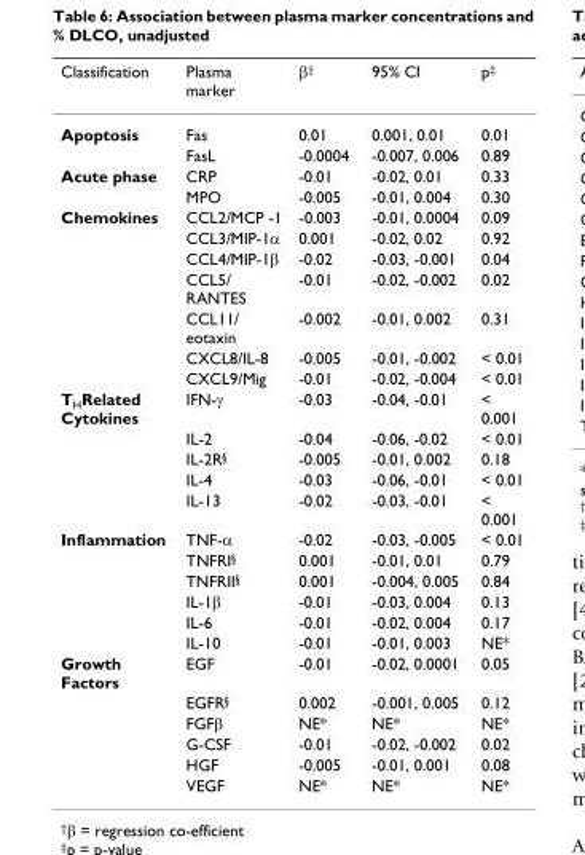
<table><thead><tr><td>Classification</td><td>Plasma marker</td><td>β<sup>†</sup></td><td>95% CI</td><td>p<sup>‡</sup></td></tr></thead><tbody><tr><td rowspan="2">Apoptosis</td><td>Fas</td><td>0.01</td><td>0.001, 0.01</td><td>0.01</td></tr><tr><td>FasL</td><td>-0.0004</td><td>-0.007, 0.006</td><td>0.89</td></tr><tr><td rowspan="2">Acute phase</td><td>CRP</td><td>-0.01</td><td>-0.02, 0.01</td><td>0.33</td></tr><tr><td>MPO</td><td>-0.005</td><td>-0.01, 0.004</td><td>0.30</td></tr><tr><td rowspan="7">Chemokines</td><td>CCL2/MCP -1</td><td>-0.003</td><td>-0.01, 0.0004</td><td>0.09</td></tr><tr><td>CCL3/MIP-1α</td><td>0.001</td><td>-0.02, 0.02</td><td>0.92</td></tr><tr><td>CCL4/MIP-1β</td><td>-0.02</td><td>-0.03, -0.001</td><td>0.04</td></tr><tr><td>CCL5/ RANTES</td><td>-0.01</td><td>-0.02, -0.002</td><td>0.02</td></tr><tr><td>CCL11/ eotaxin</td><td>-0.002</td><td>-0.01, 0.002</td><td>0.31</td></tr><tr><td>CXCL8/IL-8</td><td>-0.005</td><td>-0.01, -0.002</td><td>&lt; 0.01</td></tr><tr><td>CXCL9/Mig</td><td>-0.01</td><td>-0.02, -0.004</td><td>&lt; 0.01</td></tr><tr><td rowspan="5">T<sub>H</sub>Related Cytokines</td><td>IFN-γ</td><td>-0.03</td><td>-0.04, -0.01</td><td>&lt; 0.001</td></tr><tr><td>IL-2</td><td>-0.04</td><td>-0.06, -0.02</td><td>&lt; 0.01</td></tr><tr><td>IL-2R<sup>§</sup></td><td>-0.005</td><td>-0.01, 0.002</td><td>0.18</td></tr><tr><td>IL-4</td><td>-0.03</td><td>-0.06, -0.01</td><td>&lt; 0.01</td></tr><tr><td>IL-13</td><td>-0.02</td><td>-0.03, -0.01</td><td>&lt; 0.001</td></tr><tr><td rowspan="6">Inflammation</td><td>TNF-α</td><td>-0.02</td><td>-0.03, -0.005</td><td>&lt; 0.01</td></tr><tr><td>TNFRI<sup>§</sup></td><td>0.001</td><td>-0.01, 0.01</td><td>0.79</td></tr><tr><td>TNFRII<sup>§</sup></td><td>0.001</td><td>-0.004, 0.005</td><td>0.84</td></tr><tr><td>IL-1β</td><td>-0.01</td><td>-0.03, 0.004</td><td>0.13</td></tr><tr><td>IL-6</td><td>-0.01</td><td>-0.02, 0.004</td><td>0.17</td></tr><tr><td>IL-10</td><td>-0.01</td><td>-0.01, 0.003</td><td>NE*</td></tr><tr><td rowspan="6">Growth Factors</td><td>EGF</td><td>-0.01</td><td>-0.02, 0.0001</td><td>0.05</td></tr><tr><td>EGFR<sup>§</sup></td><td>0.002</td><td>-0.001, 0.005</td><td>0.12</td></tr><tr><td>FGFβ</td><td>NE*</td><td>NE*</td><td>NE*</td></tr><tr><td>G-CSF</td><td>-0.01</td><td>-0.02, -0.002</td><td>0.02</td></tr><tr><td>HGF</td><td>-0.005</td><td>-0.01, 0.001</td><td>0.08</td></tr><tr><td>VEGF</td><td>NE*</td><td>NE*</td><td>NE*</td></tr></tbody></table>